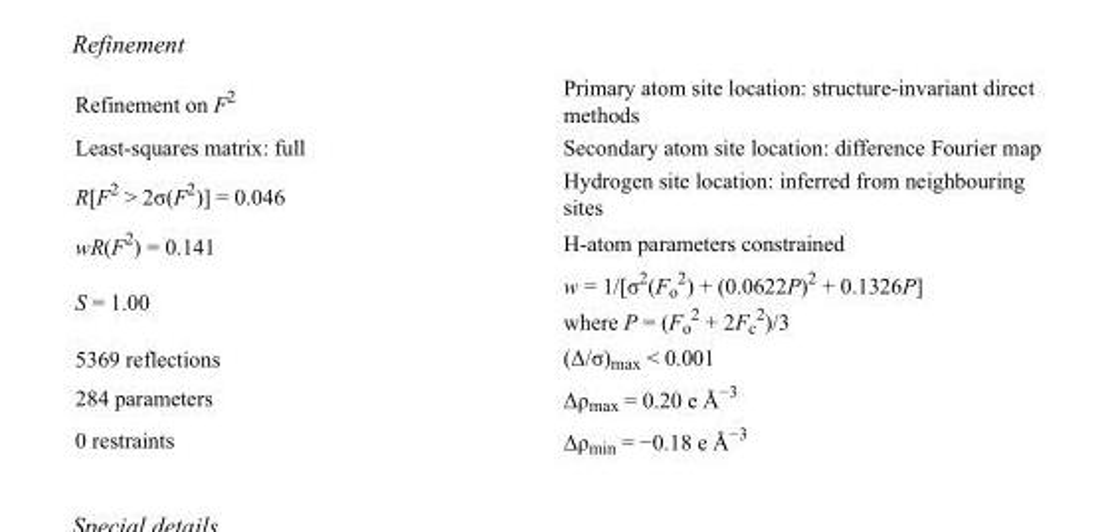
<table><tbody><tr><td>Refinement on F<sup>2</sup></td><td>Primary atom site location: structure-invariant direct methods</td></tr><tr><td>Least-squares matrix: full</td><td>Secondary atom site location: difference Fourier map</td></tr><tr><td>R[F<sup>2</sup> &gt; 2σ(F<sup>2</sup>)] = 0.046</td><td>Hydrogen site location: inferred from neighbouring sites</td></tr><tr><td>wR(F<sup>2</sup>) = 0.141</td><td>H-atom parameters constrained</td></tr><tr><td>S = 1.00</td><td>w = 1/[σ<sup>2</sup>(F<sub>o</sub> <sup>2</sup>) + (0.0622P)<sup>2</sup> + 0.1326P] where P = (F<sub>o</sub> <sup>2</sup> + 2F<sub>c</sub> <sup>2</sup>)/3</td></tr><tr><td>5369 reflections</td><td>(Δ/σ)<sub>max</sub> &lt; 0.001</td></tr><tr><td>284 parameters</td><td>Δρ<sub>max</sub> = 0.20 e Å<sup>−3</sup></td></tr><tr><td>0 restraints</td><td>Δρ<sub>min</sub> = −0.18 e Å<sup>−3</sup></td></tr></tbody></table>